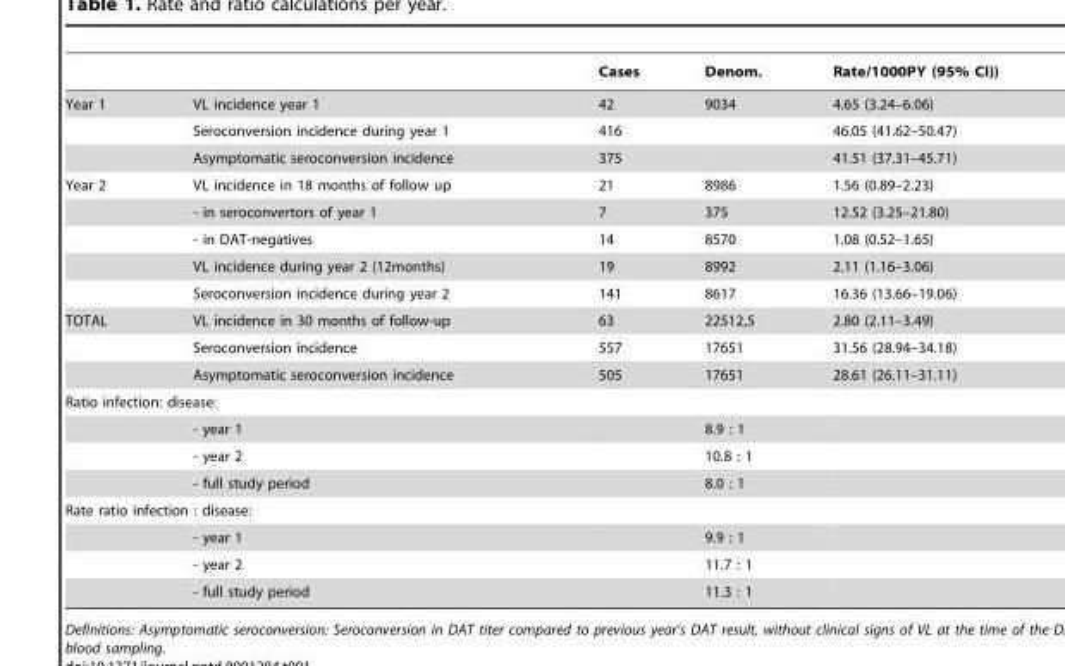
<table><thead><tr><td></td><td></td><td>Cases</td><td>Denom.</td><td>Rate/1000PY (95% CI))</td></tr></thead><tbody><tr><td rowspan="3">Year 1</td><td>VL incidence year 1</td><td>42</td><td>9034</td><td>4.65 (3.24–6.06)</td></tr><tr><td>Seroconversion incidence during year 1</td><td>416</td><td></td><td>46.05 (41.62–50.47)</td></tr><tr><td>Asymptomatic seroconversion incidence</td><td>375</td><td></td><td>41.51 (37.31–45.71)</td></tr><tr><td rowspan="5">Year 2</td><td>VL incidence in 18 months of follow up</td><td>21</td><td>8986</td><td>1.56 (0.89–2.23)</td></tr><tr><td>- in seroconvertors of year 1</td><td>7</td><td>375</td><td>12.52 (3.25–21.80)</td></tr><tr><td>- in DAT-negatives</td><td>14</td><td>8570</td><td>1.08 (0.52–1.65)</td></tr><tr><td>VL incidence during year 2 (12months)</td><td>19</td><td>8992</td><td>2.11 (1.16–3.06)</td></tr><tr><td>Seroconversion incidence during year 2</td><td>141</td><td>8617</td><td>16.36 (13.66–19.06)</td></tr><tr><td rowspan="3">TOTAL</td><td>VL incidence in 30 months of follow-up</td><td>63</td><td>22512,5</td><td>2.80 (2.11–3.49)</td></tr><tr><td>Seroconversion incidence</td><td>557</td><td>17651</td><td>31.56 (28.94–34.18)</td></tr><tr><td>Asymptomatic seroconversion incidence</td><td>505</td><td>17651</td><td>28.61 (26.11–31.11)</td></tr><tr><td colspan="5">Ratio infection: disease:</td></tr><tr><td></td><td>- year 1</td><td></td><td>8.9 : 1</td><td></td></tr><tr><td></td><td>- year 2</td><td></td><td>10.8 : 1</td><td></td></tr><tr><td></td><td>- full study period</td><td></td><td>8.0 : 1</td><td></td></tr><tr><td colspan="5">Rate ratio infection : disease:</td></tr><tr><td></td><td>- year 1</td><td></td><td>9.9 : 1</td><td></td></tr><tr><td></td><td>- year 2</td><td></td><td>11.7 : 1</td><td></td></tr><tr><td></td><td>- full study period</td><td></td><td>11.3 : 1</td><td></td></tr></tbody></table>